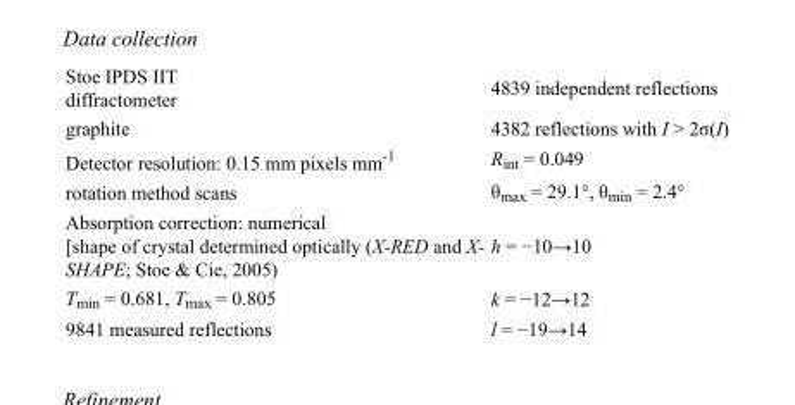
<table><tbody><tr><td>Stoe IPDS IIT diffractometer</td><td>4839 independent reflections</td></tr><tr><td>graphite</td><td>4382 reflections with I &gt; 2σ(I)</td></tr><tr><td>Detector resolution: 0.15 mm pixels mm<sup>-1</sup></td><td>R<sub>int</sub> = 0.049</td></tr><tr><td>rotation method scans</td><td>θ<sub>max</sub> = 29.1°, θ<sub>min</sub> = 2.4°</td></tr><tr><td>Absorption correction: numerical [shape of crystal determined optically (X-RED and X- SHAPE; Stoe &amp; Cie, 2005)</td><td>h = −10→10</td></tr><tr><td>T<sub>min</sub> = 0.681, T<sub>max</sub> = 0.805</td><td>k = −12→12</td></tr><tr><td>9841 measured reflections</td><td>l = −19→14</td></tr></tbody></table>